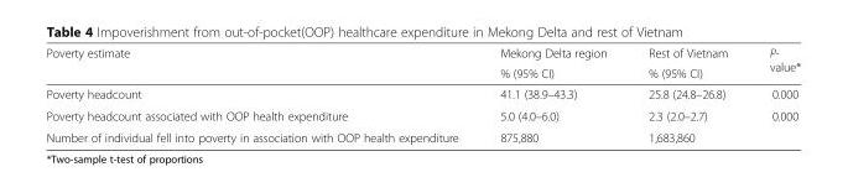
<table><thead><tr><td rowspan="2">Poverty estimate</td><td rowspan="2">Mekong Delta region % (95% CI)</td><td rowspan="2">Rest of Vietnam % (95% CI)</td><td rowspan="2">P- value*</td></tr><tr></tr></thead><tbody><tr><td>Poverty headcount</td><td>41.1 (38.9–43.3)</td><td>25.8 (24.8–26.8)</td><td>0.000</td></tr><tr><td>Poverty headcount associated with OOP health expenditure</td><td>5.0 (4.0–6.0)</td><td>2.3 (2.0–2.7)</td><td>0.000</td></tr><tr><td>Number of individual fell into poverty in association with OOP health expenditure</td><td>875,880</td><td>1,683,860</td><td></td></tr></tbody></table>